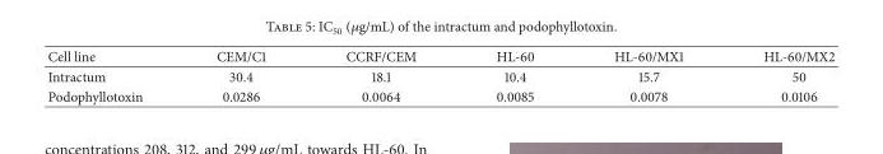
<table><thead><tr><td>Cell line</td><td>CEM/C1</td><td>CCRF/CEM</td><td>HL-60</td><td>HL-60/MX1</td><td>HL-60/MX2</td></tr></thead><tbody><tr><td>Intractum</td><td>30.4</td><td>18.1</td><td>10.4</td><td>15.7</td><td>50</td></tr><tr><td>Podophyllotoxin</td><td>0.0286</td><td>0.0064</td><td>0.0085</td><td>0.0078</td><td>0.0106</td></tr></tbody></table>